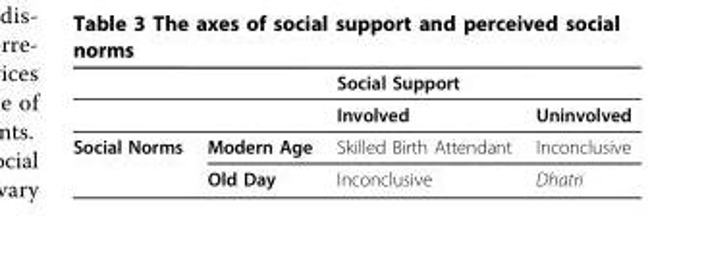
<table><thead><tr><td rowspan="2"></td><td rowspan="2"></td><td colspan="2">Social Support</td></tr><tr><td>Involved</td><td>Uninvolved</td></tr></thead><tbody><tr><td rowspan="2">Social Norms</td><td>Modern Age</td><td>Skilled Birth Attendant</td><td>Inconclusive</td></tr><tr><td>Old Day</td><td>Inconclusive</td><td>Dhatri</td></tr></tbody></table>